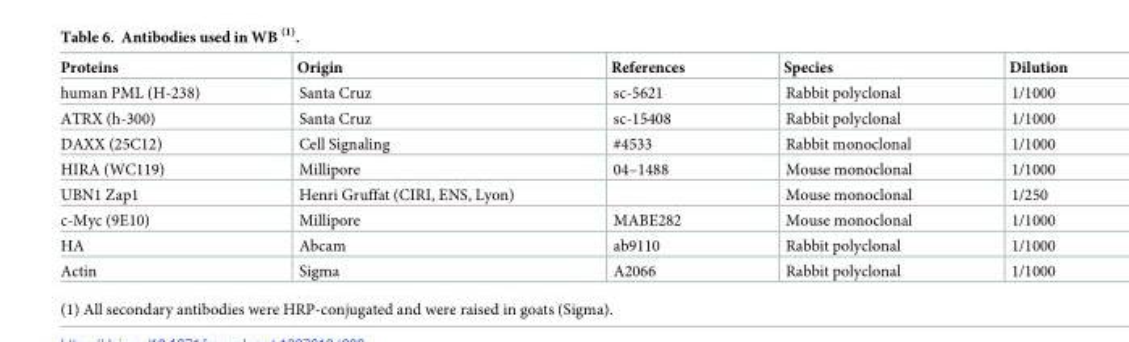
<table><thead><tr><td>Proteins</td><td>Origin</td><td>References</td><td>Species</td><td>Dilution</td></tr></thead><tbody><tr><td>human PML (H-238)</td><td>Santa Cruz</td><td>sc-5621</td><td>Rabbit polyclonal</td><td>1/1000</td></tr><tr><td>ATRX (h-300)</td><td>Santa Cruz</td><td>sc-15408</td><td>Rabbit polyclonal</td><td>1/1000</td></tr><tr><td>DAXX (25C12)</td><td>Cell Signaling</td><td>#4533</td><td>Rabbit monoclonal</td><td>1/1000</td></tr><tr><td>HIRA (WC119)</td><td>Millipore</td><td>04–1488</td><td>Mouse monoclonal</td><td>1/1000</td></tr><tr><td>UBN1 Zap1</td><td>Henri Gruffat (CIRI, ENS, Lyon)</td><td></td><td>Mouse monoclonal</td><td>1/250</td></tr><tr><td>c-Myc (9E10)</td><td>Millipore</td><td>MABE282</td><td>Mouse monoclonal</td><td>1/1000</td></tr><tr><td>HA</td><td>Abcam</td><td>ab9110</td><td>Rabbit polyclonal</td><td>1/1000</td></tr><tr><td>Actin</td><td>Sigma</td><td>A2066</td><td>Rabbit polyclonal</td><td>1/1000</td></tr></tbody></table>